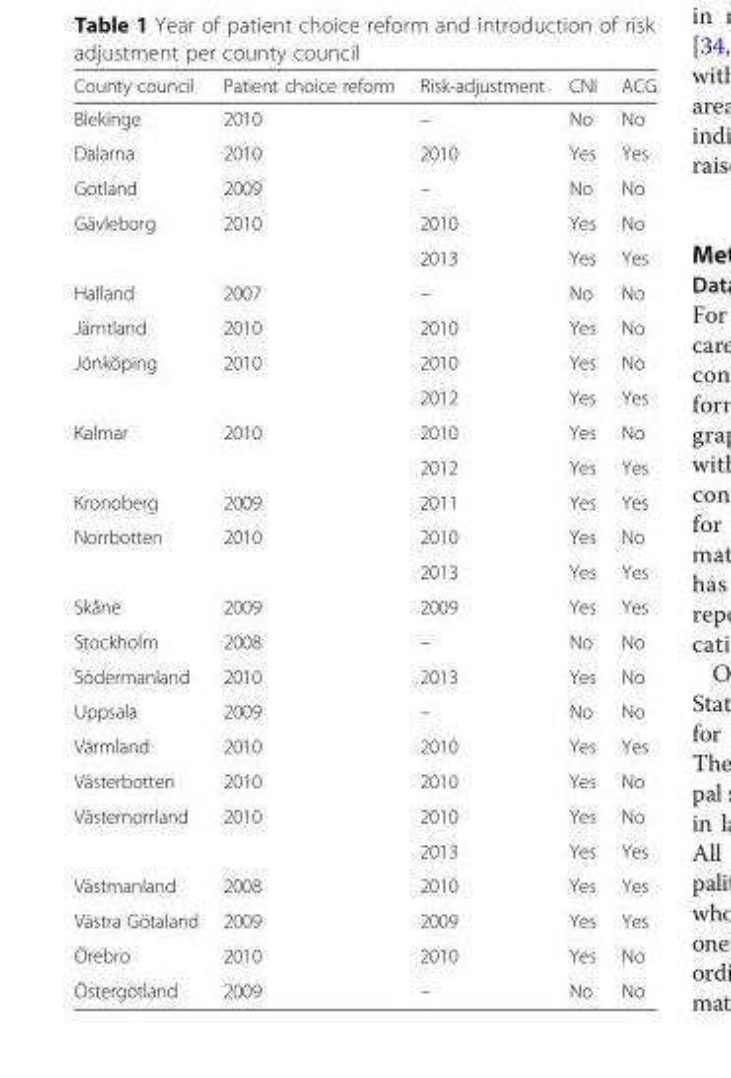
<table><thead><tr><td>County council</td><td>Patient choice reform</td><td>Risk-adjustment</td><td>CNI</td><td>ACG</td></tr></thead><tbody><tr><td>Blekinge</td><td>2010</td><td>–</td><td>No</td><td>No</td></tr><tr><td>Dalarna</td><td>2010</td><td>2010</td><td>Yes</td><td>Yes</td></tr><tr><td>Gotland</td><td>2009</td><td>–</td><td>No</td><td>No</td></tr><tr><td rowspan="2">Gävleborg</td><td>2010</td><td>2010</td><td>Yes</td><td>No</td></tr><tr><td></td><td>2013</td><td>Yes</td><td>Yes</td></tr><tr><td>Halland</td><td>2007</td><td>–</td><td>No</td><td>No</td></tr><tr><td>Jämtland</td><td>2010</td><td>2010</td><td>Yes</td><td>No</td></tr><tr><td rowspan="2">Jönköping</td><td>2010</td><td>2010</td><td>Yes</td><td>No</td></tr><tr><td></td><td>2012</td><td>Yes</td><td>Yes</td></tr><tr><td rowspan="2">Kalmar</td><td>2010</td><td>2010</td><td>Yes</td><td>No</td></tr><tr><td></td><td>2012</td><td>Yes</td><td>Yes</td></tr><tr><td>Kronoberg</td><td>2009</td><td>2011</td><td>Yes</td><td>Yes</td></tr><tr><td rowspan="2">Norrbotten</td><td>2010</td><td>2010</td><td>Yes</td><td>No</td></tr><tr><td></td><td>2013</td><td>Yes</td><td>Yes</td></tr><tr><td>Skåne</td><td>2009</td><td>2009</td><td>Yes</td><td>Yes</td></tr><tr><td>Stockholm</td><td>2008</td><td>–</td><td>No</td><td>No</td></tr><tr><td>Södermanland</td><td>2010</td><td>2013</td><td>Yes</td><td>No</td></tr><tr><td>Uppsala</td><td>2009</td><td>–</td><td>No</td><td>No</td></tr><tr><td>Värmland</td><td>2010</td><td>2010</td><td>Yes</td><td>Yes</td></tr><tr><td>Västerbotten</td><td>2010</td><td>2010</td><td>Yes</td><td>No</td></tr><tr><td rowspan="2">Västernorrland</td><td>2010</td><td>2010</td><td>Yes</td><td>No</td></tr><tr><td></td><td>2013</td><td>Yes</td><td>Yes</td></tr><tr><td>Västmanland</td><td>2008</td><td>2010</td><td>Yes</td><td>Yes</td></tr><tr><td>Västra Götaland</td><td>2009</td><td>2009</td><td>Yes</td><td>Yes</td></tr><tr><td>Örebro</td><td>2010</td><td>2010</td><td>Yes</td><td>No</td></tr><tr><td>Östergötland</td><td>2009</td><td>–</td><td>No</td><td>No</td></tr></tbody></table>